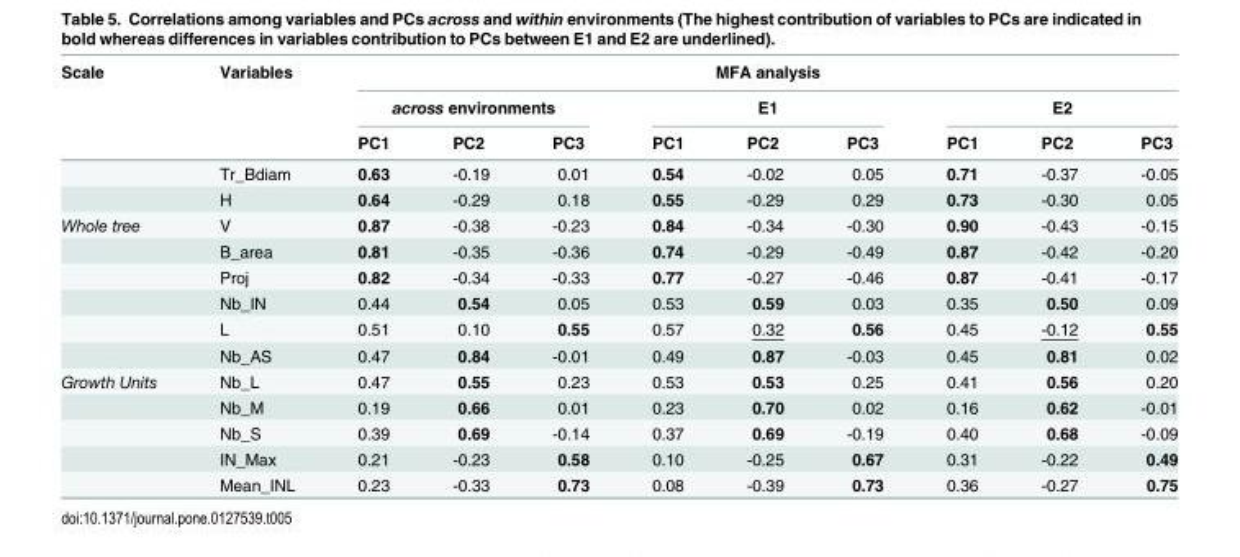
<table><thead><tr><td rowspan="3">Scale</td><td rowspan="3">Variables</td><td colspan="9">MFA analysis</td></tr><tr><td colspan="3">across environments</td><td colspan="3">E1</td><td colspan="3">E2</td></tr><tr><td>PC1</td><td>PC2</td><td>PC3</td><td>PC1</td><td>PC2</td><td>PC3</td><td>PC1</td><td>PC2</td><td>PC3</td></tr></thead><tbody><tr><td></td><td>Tr_Bdiam</td><td>0.63</td><td>-0.19</td><td>0.01</td><td>0.54</td><td>-0.02</td><td>0.05</td><td>0.71</td><td>-0.37</td><td>-0.05</td></tr><tr><td></td><td>H</td><td>0.64</td><td>-0.29</td><td>0.18</td><td>0.55</td><td>-0.29</td><td>0.29</td><td>0.73</td><td>-0.30</td><td>0.05</td></tr><tr><td rowspan="6">Whole tree</td><td>V</td><td>0.87</td><td>-0.38</td><td>-0.23</td><td>0.84</td><td>-0.34</td><td>-0.30</td><td>0.90</td><td>-0.43</td><td>-0.15</td></tr><tr><td>B_area</td><td>0.81</td><td>-0.35</td><td>-0.36</td><td>0.74</td><td>-0.29</td><td>-0.49</td><td>0.87</td><td>-0.42</td><td>-0.20</td></tr><tr><td>Proj</td><td>0.82</td><td>-0.34</td><td>-0.33</td><td>0.77</td><td>-0.27</td><td>-0.46</td><td>0.87</td><td>-0.41</td><td>-0.17</td></tr><tr><td>Nb_IN</td><td>0.44</td><td>0.54</td><td>0.05</td><td>0.53</td><td>0.59</td><td>0.03</td><td>0.35</td><td>0.50</td><td>0.09</td></tr><tr><td>L</td><td>0.51</td><td>0.10</td><td>0.55</td><td>0.57</td><td>0.32</td><td>0.56</td><td>0.45</td><td>-0.12</td><td>0.55</td></tr><tr><td>Nb_AS</td><td>0.47</td><td>0.84</td><td>-0.01</td><td>0.49</td><td>0.87</td><td>-0.03</td><td>0.45</td><td>0.81</td><td>0.02</td></tr><tr><td rowspan="5">Growth Units</td><td>Nb_L</td><td>0.47</td><td>0.55</td><td>0.23</td><td>0.53</td><td>0.53</td><td>0.25</td><td>0.41</td><td>0.56</td><td>0.20</td></tr><tr><td>Nb_M</td><td>0.19</td><td>0.66</td><td>0.01</td><td>0.23</td><td>0.70</td><td>0.02</td><td>0.16</td><td>0.62</td><td>-0.01</td></tr><tr><td>Nb_S</td><td>0.39</td><td>0.69</td><td>-0.14</td><td>0.37</td><td>0.69</td><td>-0.19</td><td>0.40</td><td>0.68</td><td>-0.09</td></tr><tr><td>IN_Max</td><td>0.21</td><td>-0.23</td><td>0.58</td><td>0.10</td><td>-0.25</td><td>0.67</td><td>0.31</td><td>-0.22</td><td>0.49</td></tr><tr><td>Mean_INL</td><td>0.23</td><td>-0.33</td><td>0.73</td><td>0.08</td><td>-0.39</td><td>0.73</td><td>0.36</td><td>-0.27</td><td>0.75</td></tr></tbody></table>